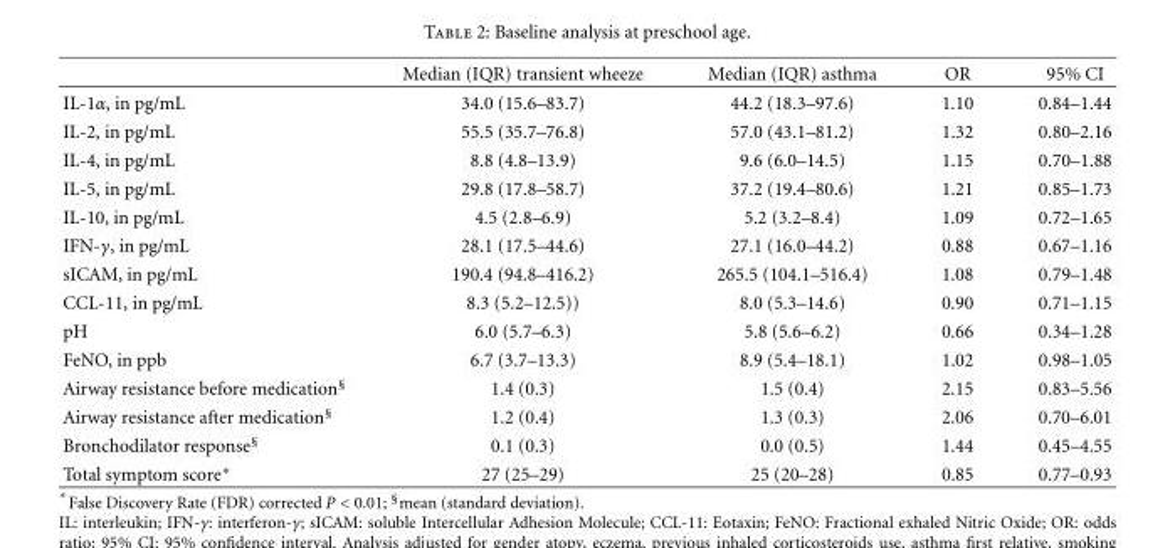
<table><thead><tr><td></td><td>Median (IQR) transient wheeze</td><td>Median (IQR) asthma</td><td>OR</td><td>95% CI</td></tr></thead><tbody><tr><td>IL-1α, in pg/mL</td><td>34.0 (15.6–83.7)</td><td>44.2 (18.3–97.6)</td><td>1.10</td><td>0.84–1.44</td></tr><tr><td>IL-2, in pg/mL</td><td>55.5 (35.7–76.8)</td><td>57.0 (43.1–81.2)</td><td>1.32</td><td>0.80–2.16</td></tr><tr><td>IL-4, in pg/mL</td><td>8.8 (4.8–13.9)</td><td>9.6 (6.0–14.5)</td><td>1.15</td><td>0.70–1.88</td></tr><tr><td>IL-5, in pg/mL</td><td>29.8 (17.8–58.7)</td><td>37.2 (19.4–80.6)</td><td>1.21</td><td>0.85–1.73</td></tr><tr><td>IL-10, in pg/mL</td><td>4.5 (2.8–6.9)</td><td>5.2 (3.2–8.4)</td><td>1.09</td><td>0.72–1.65</td></tr><tr><td>IFN-γ, in pg/mL</td><td>28.1 (17.5–44.6)</td><td>27.1 (16.0–44.2)</td><td>0.88</td><td>0.67–1.16</td></tr><tr><td>sICAM, in pg/mL</td><td>190.4 (94.8–416.2)</td><td>265.5 (104.1–516.4)</td><td>1.08</td><td>0.79–1.48</td></tr><tr><td>CCL-11, in pg/mL</td><td>8.3 (5.2–12.5))</td><td>8.0 (5.3–14.6)</td><td>0.90</td><td>0.71–1.15</td></tr><tr><td>pH</td><td>6.0 (5.7–6.3)</td><td>5.8 (5.6–6.2)</td><td>0.66</td><td>0.34–1.28</td></tr><tr><td>FeNO, in ppb</td><td>6.7 (3.7–13.3)</td><td>8.9 (5.4–18.1)</td><td>1.02</td><td>0.98–1.05</td></tr><tr><td>Airway resistance before medication<sup>§</sup></td><td>1.4 (0.3)</td><td>1.5 (0.4)</td><td>2.15</td><td>0.83–5.56</td></tr><tr><td>Airway resistance after medication<sup>§</sup></td><td>1.2 (0.4)</td><td>1.3 (0.3)</td><td>2.06</td><td>0.70–6.01</td></tr><tr><td>Bronchodilator response<sup>§</sup></td><td>0.1 (0.3)</td><td>0.0 (0.5)</td><td>1.44</td><td>0.45–4.55</td></tr><tr><td>Total symptom score∗</td><td>27 (25–29)</td><td>25 (20–28)</td><td>0.85</td><td>0.77–0.93</td></tr></tbody></table>